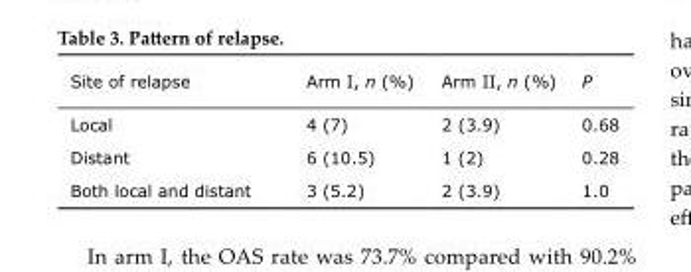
<table><thead><tr><td>Site of relapse</td><td>Arm I, n (%)</td><td>Arm II, n (%)</td><td>P</td></tr></thead><tbody><tr><td>Local</td><td>4 (7)</td><td>2 (3.9)</td><td>0.68</td></tr><tr><td>Distant</td><td>6 (10.5)</td><td>1 (2)</td><td>0.28</td></tr><tr><td>Both local and distant</td><td>3 (5.2)</td><td>2 (3.9)</td><td>1.0</td></tr></tbody></table>